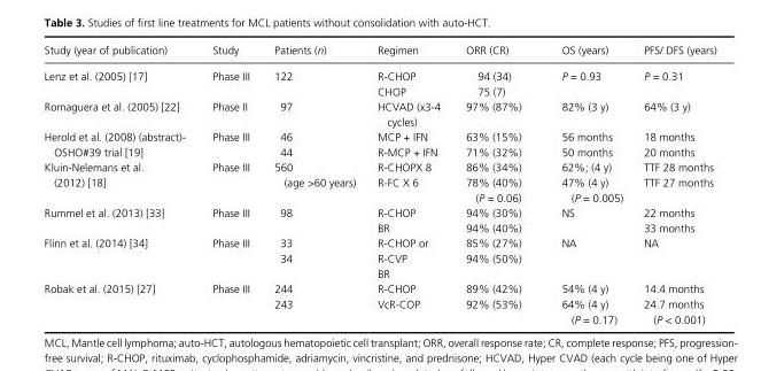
<table><thead><tr><td>Study (year of publication)</td><td>Study</td><td>Patients (n)</td><td>Regimen</td><td>ORR (CR)</td><td>OS (years)</td><td>PFS/ DFS (years)</td></tr></thead><tbody><tr><td>Lenz et al. (2005) [17]</td><td>Phase III</td><td>122</td><td>R- CHOP CHOP</td><td>94 (34) 75 (7)</td><td>P = 0.93</td><td>P = 0.31</td></tr><tr><td>Romaguera et al. (2005) [22]</td><td>Phase II</td><td>97</td><td>HCVAD (x3- 4 cycles)</td><td>97% (87%)</td><td>82% (3 y)</td><td>64% (3 y)</td></tr><tr><td>Herold et al. (2008) (abstract)- OSHO#39 trial [19]</td><td>Phase III</td><td>46 44</td><td>MCP + IFN R- MCP + IFN</td><td>63% (15%) 71% (32%)</td><td>56 months 50 months</td><td>18 months 20 months</td></tr><tr><td>Kluin- Nelemans et al. (2012) [18]</td><td>Phase III</td><td>560 (age &gt;60 years)</td><td>R- CHOPX 8 R- FC X 6</td><td>86% (34%) 78% (40%) (P = 0.06)</td><td>62%; (4 y) 47% (4 y) (P = 0.005)</td><td>TTF 28 months TTF 27 months</td></tr><tr><td>Rummel et al. (2013) [33]</td><td>Phase III</td><td>98</td><td>R- CHOP BR</td><td>94% (30%) 94% (40%)</td><td>NS</td><td>22 months 33 months</td></tr><tr><td>Flinn et al. (2014) [34]</td><td>Phase III</td><td>33 34</td><td>R- CHOP or R- CVP BR</td><td>85% (27%) 94% (50%)</td><td>NA</td><td>NA</td></tr><tr><td>Robak et al. (2015) [27]</td><td>Phase III</td><td>244 243</td><td>R- CHOP VcR- COP</td><td>89% (42%) 92% (53%)</td><td>54% (4 y) 64% (4 y) (P = 0.17)</td><td>14.4 months 24.7 months (P &lt; 0.001)</td></tr></tbody></table>